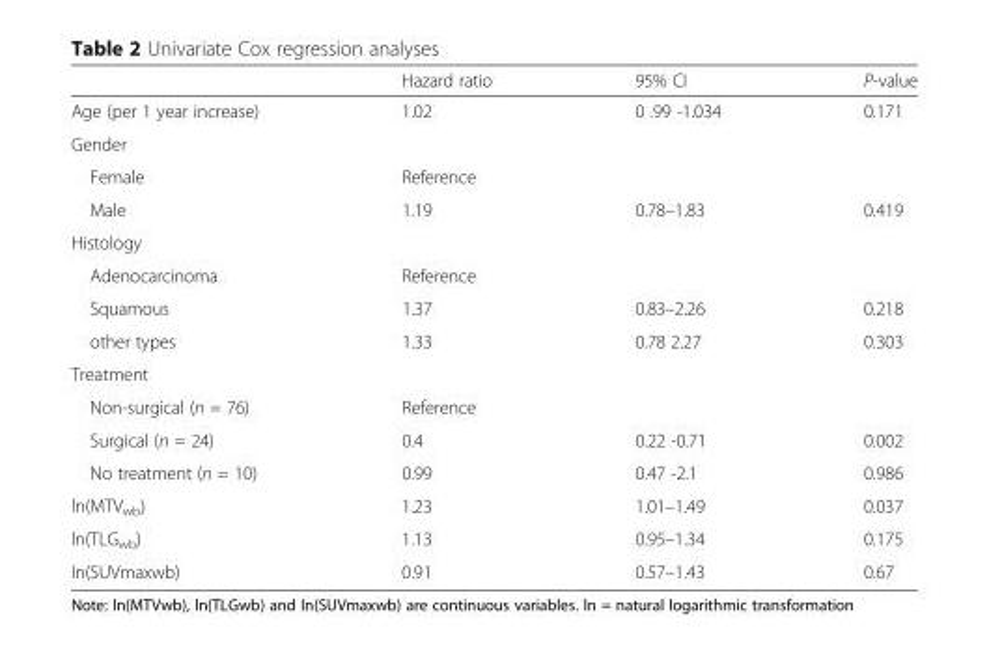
<table><thead><tr><td></td><td>Hazard ratio</td><td>95% CI</td><td>P-value</td></tr></thead><tbody><tr><td>Age (per 1 year increase)</td><td>1.02</td><td>0 .99 -1.034</td><td>0.171</td></tr><tr><td colspan="4">Gender</td></tr><tr><td>Female</td><td>Reference</td><td></td><td></td></tr><tr><td>Male</td><td>1.19</td><td>0.78–1.83</td><td>0.419</td></tr><tr><td colspan="4">Histology</td></tr><tr><td>Adenocarcinoma</td><td>Reference</td><td></td><td></td></tr><tr><td>Squamous</td><td>1.37</td><td>0.83–2.26</td><td>0.218</td></tr><tr><td>other types</td><td>1.33</td><td>0.78 2.27</td><td>0.303</td></tr><tr><td colspan="4">Treatment</td></tr><tr><td>Non-surgical (n = 76)</td><td>Reference</td><td></td><td></td></tr><tr><td>Surgical (n = 24)</td><td>0.4</td><td>0.22 -0.71</td><td>0.002</td></tr><tr><td>No treatment (n = 10)</td><td>0.99</td><td>0.47 -2.1</td><td>0.986</td></tr><tr><td>ln(MTV<sub>wb</sub>)</td><td>1.23</td><td>1.01–1.49</td><td>0.037</td></tr><tr><td>ln(TLG<sub>wb</sub>)</td><td>1.13</td><td>0.95–1.34</td><td>0.175</td></tr><tr><td>In(SUVmaxwb)</td><td>0.91</td><td>0.57–1.43</td><td>0.67</td></tr></tbody></table>